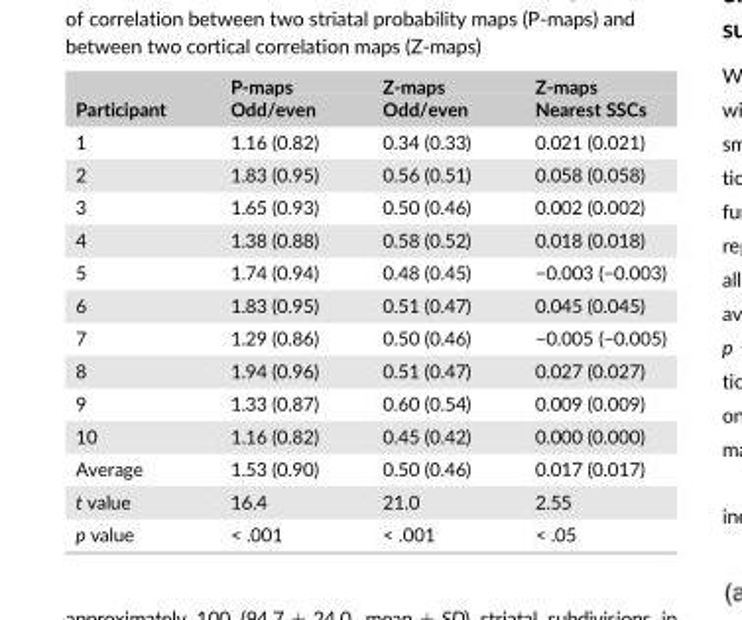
<table><thead><tr><td rowspan="2">Participant</td><td rowspan="2">P-maps Odd/even</td><td rowspan="2">Z-maps Odd/even</td><td rowspan="2">Z-maps Nearest SSCs</td></tr><tr></tr></thead><tbody><tr><td>1</td><td>1.16 (0.82)</td><td>0.34 (0.33)</td><td>0.021 (0.021)</td></tr><tr><td>2</td><td>1.83 (0.95)</td><td>0.56 (0.51)</td><td>0.058 (0.058)</td></tr><tr><td>3</td><td>1.65 (0.93)</td><td>0.50 (0.46)</td><td>0.002 (0.002)</td></tr><tr><td>4</td><td>1.38 (0.88)</td><td>0.58 (0.52)</td><td>0.018 (0.018)</td></tr><tr><td>5</td><td>1.74 (0.94)</td><td>0.48 (0.45)</td><td>−0.003 (−0.003)</td></tr><tr><td>6</td><td>1.83 (0.95)</td><td>0.51 (0.47)</td><td>0.045 (0.045)</td></tr><tr><td>7</td><td>1.29 (0.86)</td><td>0.50 (0.46)</td><td>−0.005 (−0.005)</td></tr><tr><td>8</td><td>1.94 (0.96)</td><td>0.51 (0.47)</td><td>0.027 (0.027)</td></tr><tr><td>9</td><td>1.33 (0.87)</td><td>0.60 (0.54)</td><td>0.009 (0.009)</td></tr><tr><td>10</td><td>1.16 (0.82)</td><td>0.45 (0.42)</td><td>0.000 (0.000)</td></tr><tr><td>Average</td><td>1.53 (0.90)</td><td>0.50 (0.46)</td><td>0.017 (0.017)</td></tr><tr><td>t value</td><td>16.4</td><td>21.0</td><td>2.55</td></tr><tr><td>p value</td><td>&lt; .001</td><td>&lt; .001</td><td>&lt; .05</td></tr></tbody></table>